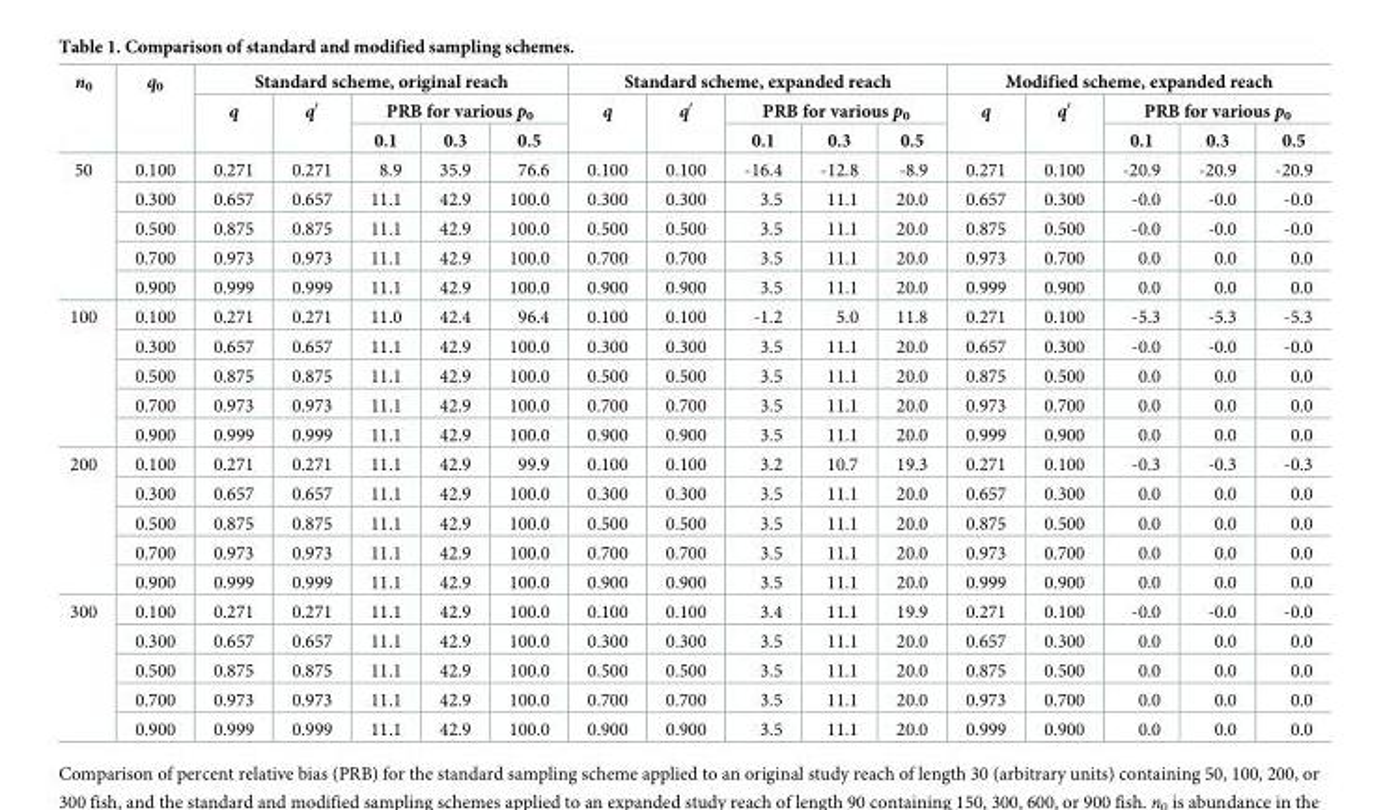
<table><thead><tr><td rowspan="3">n<sub>0</sub></td><td rowspan="3">q<sub>0</sub></td><td colspan="5">Standard scheme, original reach</td><td colspan="5">Standard scheme, expanded reach</td><td colspan="5">Modified scheme, expanded reach</td></tr><tr><td rowspan="2">q</td><td rowspan="2">q′</td><td colspan="3">PRB for various p<sub>0</sub></td><td rowspan="2">q</td><td rowspan="2">q′</td><td colspan="3">PRB for various p<sub>0</sub></td><td rowspan="2">q</td><td rowspan="2">q′</td><td colspan="3">PRB for various p<sub>0</sub></td></tr><tr><td>0.1</td><td>0.3</td><td>0.5</td><td>0.1</td><td>0.3</td><td>0.5</td><td>0.1</td><td>0.3</td><td>0.5</td></tr></thead><tbody><tr><td rowspan="5">50</td><td>0.100</td><td>0.271</td><td>0.271</td><td>8.9</td><td>35.9</td><td>76.6</td><td>0.100</td><td>0.100</td><td>-16.4</td><td>-12.8</td><td>-8.9</td><td>0.271</td><td>0.100</td><td>-20.9</td><td>-20.9</td><td>-20.9</td></tr><tr><td>0.300</td><td>0.657</td><td>0.657</td><td>11.1</td><td>42.9</td><td>100.0</td><td>0.300</td><td>0.300</td><td>3.5</td><td>11.1</td><td>20.0</td><td>0.657</td><td>0.300</td><td>-0.0</td><td>-0.0</td><td>-0.0</td></tr><tr><td>0.500</td><td>0.875</td><td>0.875</td><td>11.1</td><td>42.9</td><td>100.0</td><td>0.500</td><td>0.500</td><td>3.5</td><td>11.1</td><td>20.0</td><td>0.875</td><td>0.500</td><td>-0.0</td><td>-0.0</td><td>-0.0</td></tr><tr><td>0.700</td><td>0.973</td><td>0.973</td><td>11.1</td><td>42.9</td><td>100.0</td><td>0.700</td><td>0.700</td><td>3.5</td><td>11.1</td><td>20.0</td><td>0.973</td><td>0.700</td><td>0.0</td><td>0.0</td><td>0.0</td></tr><tr><td>0.900</td><td>0.999</td><td>0.999</td><td>11.1</td><td>42.9</td><td>100.0</td><td>0.900</td><td>0.900</td><td>3.5</td><td>11.1</td><td>20.0</td><td>0.999</td><td>0.900</td><td>0.0</td><td>0.0</td><td>0.0</td></tr><tr><td rowspan="5">100</td><td>0.100</td><td>0.271</td><td>0.271</td><td>11.0</td><td>42.4</td><td>96.4</td><td>0.100</td><td>0.100</td><td>-1.2</td><td>5.0</td><td>11.8</td><td>0.271</td><td>0.100</td><td>-5.3</td><td>-5.3</td><td>-5.3</td></tr><tr><td>0.300</td><td>0.657</td><td>0.657</td><td>11.1</td><td>42.9</td><td>100.0</td><td>0.300</td><td>0.300</td><td>3.5</td><td>11.1</td><td>20.0</td><td>0.657</td><td>0.300</td><td>-0.0</td><td>-0.0</td><td>-0.0</td></tr><tr><td>0.500</td><td>0.875</td><td>0.875</td><td>11.1</td><td>42.9</td><td>100.0</td><td>0.500</td><td>0.500</td><td>3.5</td><td>11.1</td><td>20.0</td><td>0.875</td><td>0.500</td><td>0.0</td><td>0.0</td><td>0.0</td></tr><tr><td>0.700</td><td>0.973</td><td>0.973</td><td>11.1</td><td>42.9</td><td>100.0</td><td>0.700</td><td>0.700</td><td>3.5</td><td>11.1</td><td>20.0</td><td>0.973</td><td>0.700</td><td>0.0</td><td>0.0</td><td>0.0</td></tr><tr><td>0.900</td><td>0.999</td><td>0.999</td><td>11.1</td><td>42.9</td><td>100.0</td><td>0.900</td><td>0.900</td><td>3.5</td><td>11.1</td><td>20.0</td><td>0.999</td><td>0.900</td><td>0.0</td><td>0.0</td><td>0.0</td></tr><tr><td rowspan="5">200</td><td>0.100</td><td>0.271</td><td>0.271</td><td>11.1</td><td>42.9</td><td>99.9</td><td>0.100</td><td>0.100</td><td>3.2</td><td>10.7</td><td>19.3</td><td>0.271</td><td>0.100</td><td>-0.3</td><td>-0.3</td><td>-0.3</td></tr><tr><td>0.300</td><td>0.657</td><td>0.657</td><td>11.1</td><td>42.9</td><td>100.0</td><td>0.300</td><td>0.300</td><td>3.5</td><td>11.1</td><td>20.0</td><td>0.657</td><td>0.300</td><td>0.0</td><td>0.0</td><td>0.0</td></tr><tr><td>0.500</td><td>0.875</td><td>0.875</td><td>11.1</td><td>42.9</td><td>100.0</td><td>0.500</td><td>0.500</td><td>3.5</td><td>11.1</td><td>20.0</td><td>0.875</td><td>0.500</td><td>0.0</td><td>0.0</td><td>0.0</td></tr><tr><td>0.700</td><td>0.973</td><td>0.973</td><td>11.1</td><td>42.9</td><td>100.0</td><td>0.700</td><td>0.700</td><td>3.5</td><td>11.1</td><td>20.0</td><td>0.973</td><td>0.700</td><td>0.0</td><td>0.0</td><td>0.0</td></tr><tr><td>0.900</td><td>0.999</td><td>0.999</td><td>11.1</td><td>42.9</td><td>100.0</td><td>0.900</td><td>0.900</td><td>3.5</td><td>11.1</td><td>20.0</td><td>0.999</td><td>0.900</td><td>0.0</td><td>0.0</td><td>0.0</td></tr><tr><td rowspan="5">300</td><td>0.100</td><td>0.271</td><td>0.271</td><td>11.1</td><td>42.9</td><td>100.0</td><td>0.100</td><td>0.100</td><td>3.4</td><td>11.1</td><td>19.9</td><td>0.271</td><td>0.100</td><td>-0.0</td><td>-0.0</td><td>-0.0</td></tr><tr><td>0.300</td><td>0.657</td><td>0.657</td><td>11.1</td><td>42.9</td><td>100.0</td><td>0.300</td><td>0.300</td><td>3.5</td><td>11.1</td><td>20.0</td><td>0.657</td><td>0.300</td><td>0.0</td><td>0.0</td><td>0.0</td></tr><tr><td>0.500</td><td>0.875</td><td>0.875</td><td>11.1</td><td>42.9</td><td>100.0</td><td>0.500</td><td>0.500</td><td>3.5</td><td>11.1</td><td>20.0</td><td>0.875</td><td>0.500</td><td>0.0</td><td>0.0</td><td>0.0</td></tr><tr><td>0.700</td><td>0.973</td><td>0.973</td><td>11.1</td><td>42.9</td><td>100.0</td><td>0.700</td><td>0.700</td><td>3.5</td><td>11.1</td><td>20.0</td><td>0.973</td><td>0.700</td><td>0.0</td><td>0.0</td><td>0.0</td></tr><tr><td>0.900</td><td>0.999</td><td>0.999</td><td>11.1</td><td>42.9</td><td>100.0</td><td>0.900</td><td>0.900</td><td>3.5</td><td>11.1</td><td>20.0</td><td>0.999</td><td>0.900</td><td>0.0</td><td>0.0</td><td>0.0</td></tr></tbody></table>